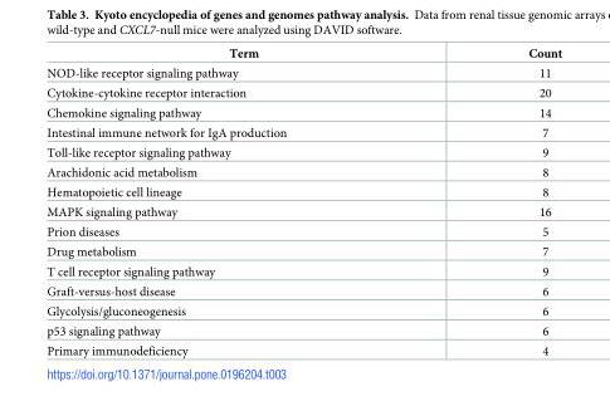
<table><thead><tr><td>Term</td><td>Count</td></tr></thead><tbody><tr><td>NOD-like receptor signaling pathway</td><td>11</td></tr><tr><td>Cytokine-cytokine receptor interaction</td><td>20</td></tr><tr><td>Chemokine signaling pathway</td><td>14</td></tr><tr><td>Intestinal immune network for IgA production</td><td>7</td></tr><tr><td>Toll-like receptor signaling pathway</td><td>9</td></tr><tr><td>Arachidonic acid metabolism</td><td>8</td></tr><tr><td>Hematopoietic cell lineage</td><td>8</td></tr><tr><td>MAPK signaling pathway</td><td>16</td></tr><tr><td>Prion diseases</td><td>5</td></tr><tr><td>Drug metabolism</td><td>7</td></tr><tr><td>T cell receptor signaling pathway</td><td>9</td></tr><tr><td>Graft-versus-host disease</td><td>6</td></tr><tr><td>Glycolysis/gluconeogenesis</td><td>6</td></tr><tr><td>p53 signaling pathway</td><td>6</td></tr><tr><td>Primary immunodeficiency</td><td>4</td></tr></tbody></table>